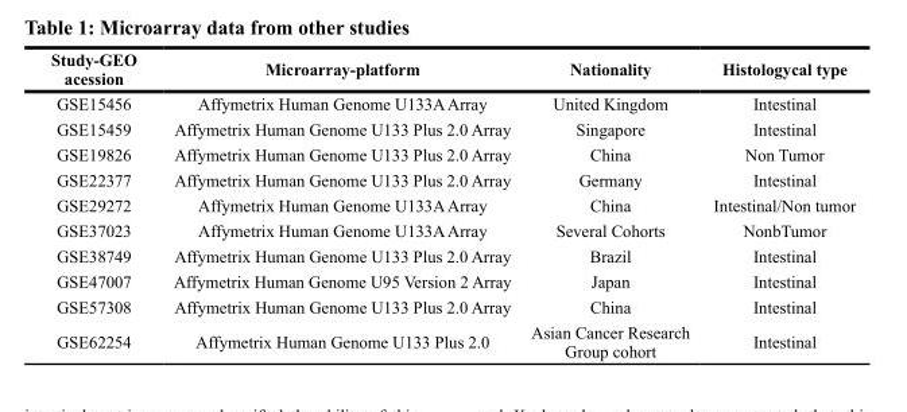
<table><thead><tr><td>Study-GEO acession</td><td>Microarray-platform</td><td>Nationality</td><td>Histologycal type</td></tr></thead><tbody><tr><td>GSE15456</td><td>Affymetrix Human Genome U133A Array</td><td>United Kingdom</td><td>Intestinal</td></tr><tr><td>GSE15459</td><td>Affymetrix Human Genome U133 Plus 2.0 Array</td><td>Singapore</td><td>Intestinal</td></tr><tr><td>GSE19826</td><td>Affymetrix Human Genome U133 Plus 2.0 Array</td><td>China</td><td>Non Tumor</td></tr><tr><td>GSE22377</td><td>Affymetrix Human Genome U133 Plus 2.0 Array</td><td>Germany</td><td>Intestinal</td></tr><tr><td>GSE29272</td><td>Affymetrix Human Genome U133A Array</td><td>China</td><td>Intestinal/Non tumor</td></tr><tr><td>GSE37023</td><td>Affymetrix Human Genome U133A Array</td><td>Several Cohorts</td><td>NonbTumor</td></tr><tr><td>GSE38749</td><td>Affymetrix Human Genome U133 Plus 2.0 Array</td><td>Brazil</td><td>Intestinal</td></tr><tr><td>GSE47007</td><td>Affymetrix Human Genome U95 Version 2 Array</td><td>Japan</td><td>Intestinal</td></tr><tr><td>GSE57308</td><td>Affymetrix Human Genome U133 Plus 2.0 Array</td><td>China</td><td>Intestinal</td></tr><tr><td>GSE62254</td><td>Affymetrix Human Genome U133 Plus 2.0</td><td>Asian Cancer Research Group cohort</td><td>Intestinal</td></tr></tbody></table>